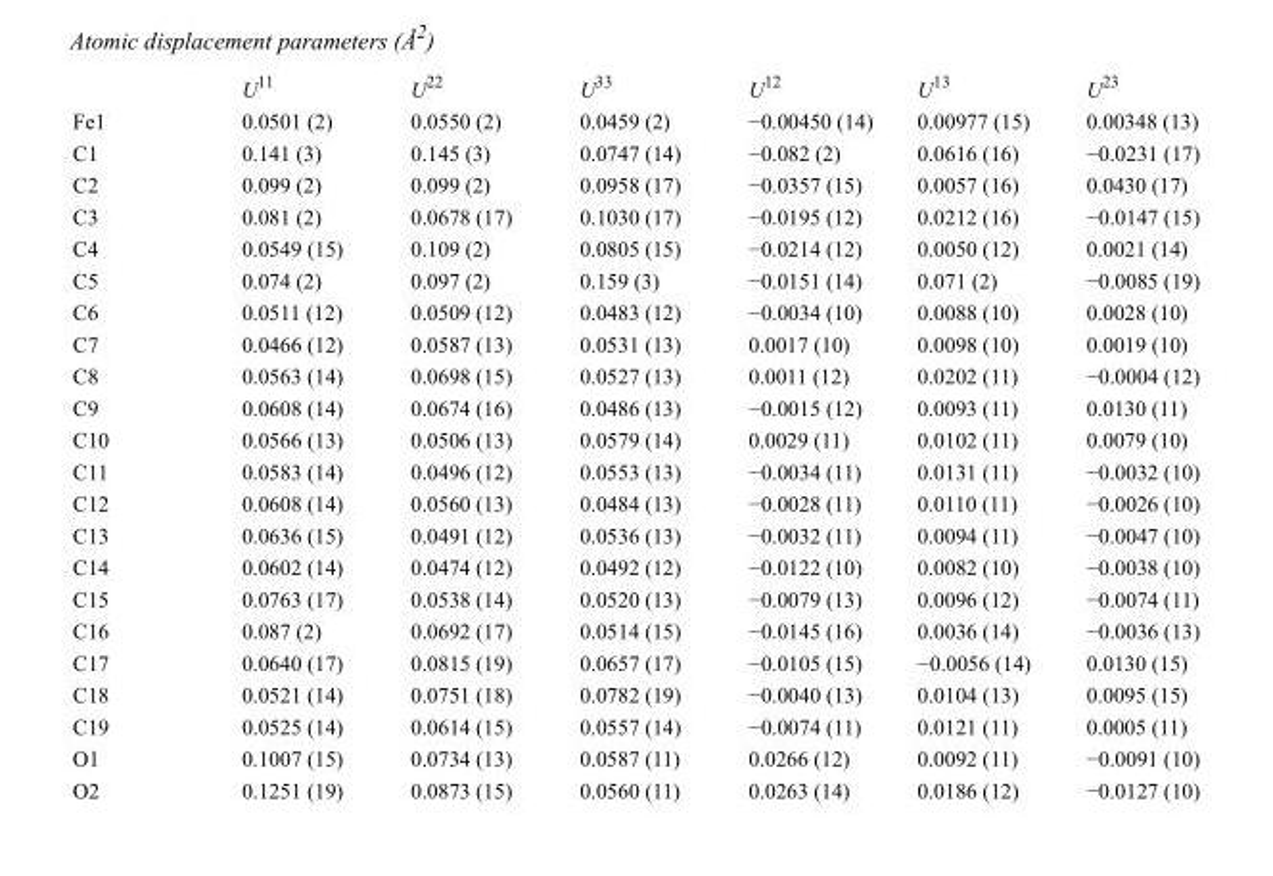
<table><thead><tr><td></td><td>U<sup>11</sup></td><td>U<sup>22</sup></td><td>U<sup>33</sup></td><td>U<sup>12</sup></td><td>U<sup>13</sup></td><td>U<sup>23</sup></td></tr></thead><tbody><tr><td>Fe1</td><td>0.0501 (2)</td><td>0.0550 (2)</td><td>0.0459 (2)</td><td>−0.00450 (14)</td><td>0.00977 (15)</td><td>0.00348 (13)</td></tr><tr><td>C1</td><td>0.141 (3)</td><td>0.145 (3)</td><td>0.0747 (14)</td><td>−0.082 (2)</td><td>0.0616 (16)</td><td>−0.0231 (17)</td></tr><tr><td>C2</td><td>0.099 (2)</td><td>0.099 (2)</td><td>0.0958 (17)</td><td>−0.0357 (15)</td><td>0.0057 (16)</td><td>0.0430 (17)</td></tr><tr><td>C3</td><td>0.081 (2)</td><td>0.0678 (17)</td><td>0.1030 (17)</td><td>−0.0195 (12)</td><td>0.0212 (16)</td><td>−0.0147 (15)</td></tr><tr><td>C4</td><td>0.0549 (15)</td><td>0.109 (2)</td><td>0.0805 (15)</td><td>−0.0214 (12)</td><td>0.0050 (12)</td><td>0.0021 (14)</td></tr><tr><td>C5</td><td>0.074 (2)</td><td>0.097 (2)</td><td>0.159 (3)</td><td>−0.0151 (14)</td><td>0.071 (2)</td><td>−0.0085 (19)</td></tr><tr><td>C6</td><td>0.0511 (12)</td><td>0.0509 (12)</td><td>0.0483 (12)</td><td>−0.0034 (10)</td><td>0.0088 (10)</td><td>0.0028 (10)</td></tr><tr><td>C7</td><td>0.0466 (12)</td><td>0.0587 (13)</td><td>0.0531 (13)</td><td>0.0017 (10)</td><td>0.0098 (10)</td><td>0.0019 (10)</td></tr><tr><td>C8</td><td>0.0563 (14)</td><td>0.0698 (15)</td><td>0.0527 (13)</td><td>0.0011 (12)</td><td>0.0202 (11)</td><td>−0.0004 (12)</td></tr><tr><td>C9</td><td>0.0608 (14)</td><td>0.0674 (16)</td><td>0.0486 (13)</td><td>−0.0015 (12)</td><td>0.0093 (11)</td><td>0.0130 (11)</td></tr><tr><td>C10</td><td>0.0566 (13)</td><td>0.0506 (13)</td><td>0.0579 (14)</td><td>0.0029 (11)</td><td>0.0102 (11)</td><td>0.0079 (10)</td></tr><tr><td>C11</td><td>0.0583 (14)</td><td>0.0496 (12)</td><td>0.0553 (13)</td><td>−0.0034 (11)</td><td>0.0131 (11)</td><td>−0.0032 (10)</td></tr><tr><td>C12</td><td>0.0608 (14)</td><td>0.0560 (13)</td><td>0.0484 (13)</td><td>−0.0028 (11)</td><td>0.0110 (11)</td><td>−0.0026 (10)</td></tr><tr><td>C13</td><td>0.0636 (15)</td><td>0.0491 (12)</td><td>0.0536 (13)</td><td>−0.0032 (11)</td><td>0.0094 (11)</td><td>−0.0047 (10)</td></tr><tr><td>C14</td><td>0.0602 (14)</td><td>0.0474 (12)</td><td>0.0492 (12)</td><td>−0.0122 (10)</td><td>0.0082 (10)</td><td>−0.0038 (10)</td></tr><tr><td>C15</td><td>0.0763 (17)</td><td>0.0538 (14)</td><td>0.0520 (13)</td><td>−0.0079 (13)</td><td>0.0096 (12)</td><td>−0.0074 (11)</td></tr><tr><td>C16</td><td>0.087 (2)</td><td>0.0692 (17)</td><td>0.0514 (15)</td><td>−0.0145 (16)</td><td>0.0036 (14)</td><td>−0.0036 (13)</td></tr><tr><td>C17</td><td>0.0640 (17)</td><td>0.0815 (19)</td><td>0.0657 (17)</td><td>−0.0105 (15)</td><td>−0.0056 (14)</td><td>0.0130 (15)</td></tr><tr><td>C18</td><td>0.0521 (14)</td><td>0.0751 (18)</td><td>0.0782 (19)</td><td>−0.0040 (13)</td><td>0.0104 (13)</td><td>0.0095 (15)</td></tr><tr><td>C19</td><td>0.0525 (14)</td><td>0.0614 (15)</td><td>0.0557 (14)</td><td>−0.0074 (11)</td><td>0.0121 (11)</td><td>0.0005 (11)</td></tr><tr><td>O1</td><td>0.1007 (15)</td><td>0.0734 (13)</td><td>0.0587 (11)</td><td>0.0266 (12)</td><td>0.0092 (11)</td><td>−0.0091 (10)</td></tr><tr><td>O2</td><td>0.1251 (19)</td><td>0.0873 (15)</td><td>0.0560 (11)</td><td>0.0263 (14)</td><td>0.0186 (12)</td><td>−0.0127 (10)</td></tr></tbody></table>